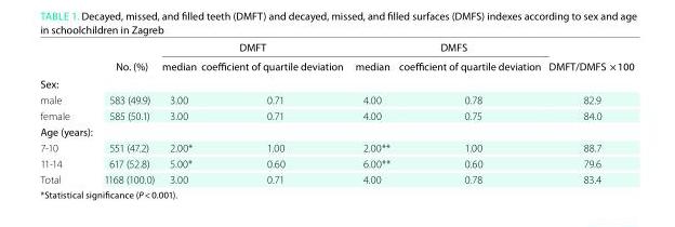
<table><thead><tr><td rowspan="2"></td><td rowspan="2">No. (%)</td><td colspan="2">DMFt</td><td colspan="2">DMFs</td><td rowspan="2">DMFt/DMFs × 100</td></tr><tr><td>median</td><td>coefficient of quartile deviation</td><td>median</td><td>coefficient of quartile deviation</td></tr></thead><tbody><tr><td colspan="7">sex:</td></tr><tr><td>male</td><td>583 (49.9)</td><td>3.00</td><td>0.71</td><td>4.00</td><td>0.78</td><td>82.9</td></tr><tr><td>female</td><td>585 (50.1)</td><td>3.00</td><td>0.71</td><td>4.00</td><td>0.75</td><td>84.0</td></tr><tr><td colspan="7">age (years):</td></tr><tr><td>7-10</td><td>551 (47.2)</td><td>2.00*</td><td>1.00</td><td>2.00**</td><td>1.00</td><td>88.7</td></tr><tr><td>11-14</td><td>617 (52.8)</td><td>5.00*</td><td>0.60</td><td>6.00**</td><td>0.60</td><td>79.6</td></tr><tr><td>Total</td><td>1168 (100.0)</td><td>3.00</td><td>0.71</td><td>4.00</td><td>0.78</td><td>83.4</td></tr></tbody></table>